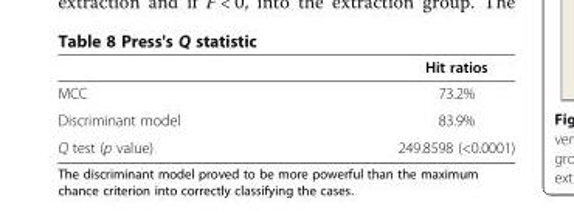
<table><thead><tr><td></td><td>Hit ratios</td></tr></thead><tbody><tr><td>MCC</td><td>73.2%</td></tr><tr><td>Discriminant model</td><td>83.9%</td></tr><tr><td>Q test (p value)</td><td>249.8598 (&lt;0.0001)</td></tr></tbody></table>